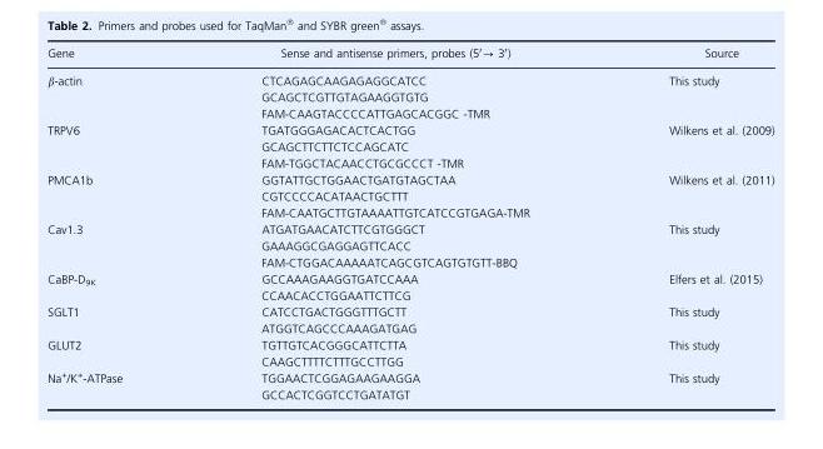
<table><thead><tr><td>Gene</td><td>Sense and antisense primers, probes (5′→ 3′)</td><td>Source</td></tr></thead><tbody><tr><td>β-actin</td><td>CTCAGAGCAAGAGAGGCATCC GCAGCTCGTTGTAGAAGGTGTG FAM-CAAGTACCCCATTGAGCACGGC -TMR</td><td>This study</td></tr><tr><td>TRPV6</td><td>TGATGGGAGACACTCACTGG GCAGCTTCTTCTCCAGCATC FAM-TGGCTACAACCTGCGCCCT -TMR</td><td>Wilkens et al. (2009)</td></tr><tr><td>PMCA1b</td><td>GGTATTGCTGGAACTGATGTAGCTAA CGTCCCCACATAACTGCTTT FAM-CAATGCTTGTAAAATTGTCATCCGTGAGA-TMR</td><td>Wilkens et al. (2011)</td></tr><tr><td>Cav1.3</td><td>ATGATGAACATCTTCGTGGGCT GAAAGGCGAGGAGTTCACC FAM-CTGGACAAAAATCAGCGTCAGTGTGTT-BBQ</td><td>This study</td></tr><tr><td>CaBP-D<sub>9K</sub></td><td>GCCAAAGAAGGTGATCCAAA CCAACACCTGGAATTCTTCG</td><td>Elfers et al. (2015)</td></tr><tr><td>SGLT1</td><td>CATCCTGACTGGGTTTGCTT ATGGTCAGCCCAAAGATGAG</td><td>This study</td></tr><tr><td>GLUT2</td><td>TGTTGTCACGGGCATTCTTA CAAGCTTTTCTTTGCCTTGG</td><td>This study</td></tr><tr><td>Na<sup>+</sup>/K<sup>+</sup>-ATPase</td><td>TGGAACTCGGAGAAGAAGGA GCCACTCGGTCCTGATATGT</td><td>This study</td></tr></tbody></table>